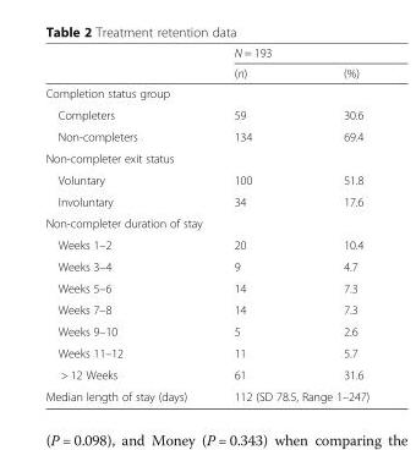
<table><thead><tr><td rowspan="2"></td><td colspan="2">N = 193</td></tr><tr><td>(n)</td><td>(%)</td></tr></thead><tbody><tr><td colspan="3">Completion status group</td></tr><tr><td>Completers</td><td>59</td><td>30.6</td></tr><tr><td>Non-completers</td><td>134</td><td>69.4</td></tr><tr><td colspan="3">Non-completer exit status</td></tr><tr><td>Voluntary</td><td>100</td><td>51.8</td></tr><tr><td>Involuntary</td><td>34</td><td>17.6</td></tr><tr><td colspan="3">Non-completer duration of stay</td></tr><tr><td>Weeks 1–2</td><td>20</td><td>10.4</td></tr><tr><td>Weeks 3–4</td><td>9</td><td>4.7</td></tr><tr><td>Weeks 5–6</td><td>14</td><td>7.3</td></tr><tr><td>Weeks 7–8</td><td>14</td><td>7.3</td></tr><tr><td>Weeks 9–10</td><td>5</td><td>2.6</td></tr><tr><td>Weeks 11–12</td><td>11</td><td>5.7</td></tr><tr><td>&gt; 12 Weeks</td><td>61</td><td>31.6</td></tr><tr><td>Median length of stay (days)</td><td colspan="2">112 (SD 78.5, Range 1–247)</td></tr></tbody></table>